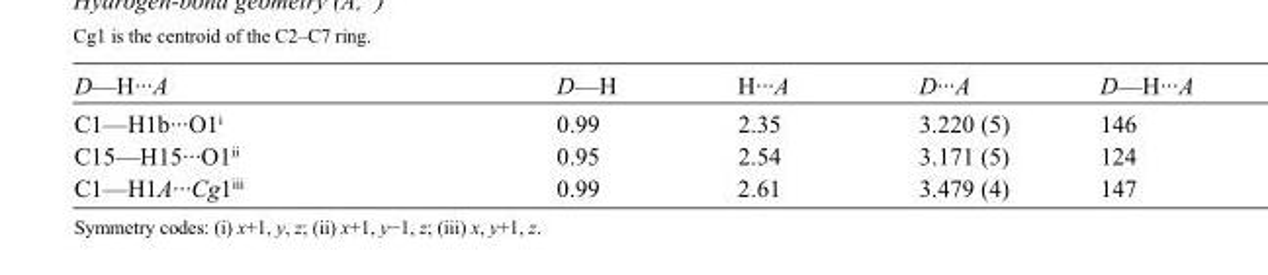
<table><tbody><tr><td>D—H···A</td><td>D—H</td><td>H···A</td><td>D···A</td><td>D—H···A</td></tr><tr><td>C1—H1b···O1<sup>i</sup></td><td>0.99</td><td>2.35</td><td>3.220 (5)</td><td>146</td></tr><tr><td>C15—H15···O1<sup>ii</sup></td><td>0.95</td><td>2.54</td><td>3.171 (5)</td><td>124</td></tr><tr><td>C1—H1A···Cg1<sup>iii</sup></td><td>0.99</td><td>2.61</td><td>3.479 (4)</td><td>147</td></tr></tbody></table>